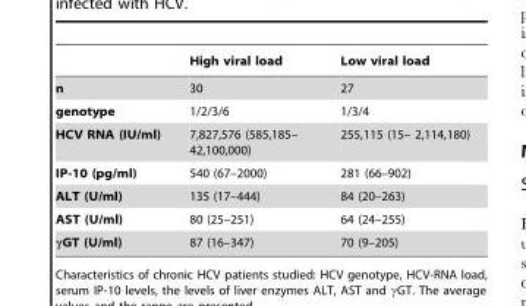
<table><thead><tr><td></td><td>High viral load</td><td>Low viral load</td></tr></thead><tbody><tr><td>n</td><td>30</td><td>27</td></tr><tr><td>genotype</td><td>1/2/3/6</td><td>1/3/4</td></tr><tr><td>HCV RNA (IU/ml)</td><td>7,827,576 (585,185– 42,100,000)</td><td>255,115 (15– 2,114,180)</td></tr><tr><td>IP-10 (pg/ml)</td><td>540 (67–2000)</td><td>281 (66–902)</td></tr><tr><td>ALT (U/ml)</td><td>135 (17–444)</td><td>84 (20–263)</td></tr><tr><td>AST (U/ml)</td><td>80 (25–251)</td><td>64 (24–255)</td></tr><tr><td>γGT (U/ml)</td><td>87 (16–347)</td><td>70 (9–205)</td></tr></tbody></table>